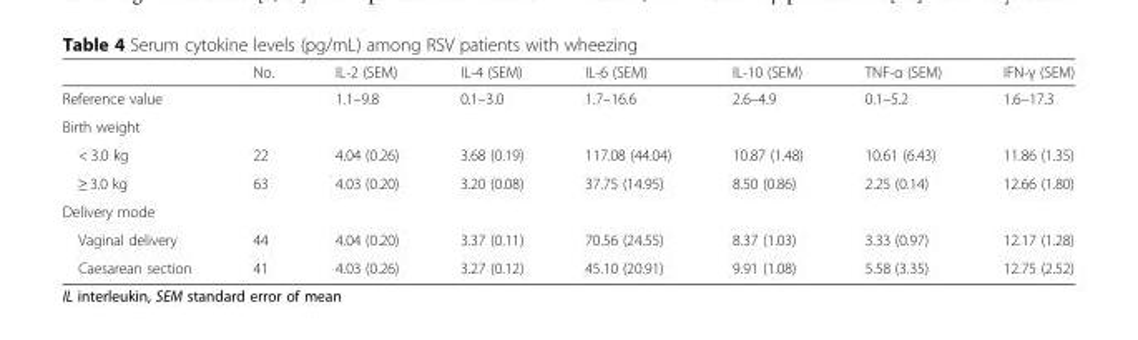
<table><thead><tr><td></td><td>No.</td><td>IL-2 (SEM)</td><td>IL-4 (SEM)</td><td>IL-6 (SEM)</td><td>IL-10 (SEM)</td><td>TNF-α (SEM)</td><td>IFN-γ (SEM)</td></tr></thead><tbody><tr><td>Reference value</td><td></td><td>1.1–9.8</td><td>0.1–3.0</td><td>1.7–16.6</td><td>2.6–4.9</td><td>0.1–5.2</td><td>1.6–17.3</td></tr><tr><td colspan="8">Birth weight</td></tr><tr><td>&lt; 3.0 kg</td><td>22</td><td>4.04 (0.26)</td><td>3.68 (0.19)</td><td>117.08 (44.04)</td><td>10.87 (1.48)</td><td>10.61 (6.43)</td><td>11.86 (1.35)</td></tr><tr><td>≥ 3.0 kg</td><td>63</td><td>4.03 (0.20)</td><td>3.20 (0.08)</td><td>37.75 (14.95)</td><td>8.50 (0.86)</td><td>2.25 (0.14)</td><td>12.66 (1.80)</td></tr><tr><td colspan="8">Delivery mode</td></tr><tr><td>Vaginal delivery</td><td>44</td><td>4.04 (0.20)</td><td>3.37 (0.11)</td><td>70.56 (24.55)</td><td>8.37 (1.03)</td><td>3.33 (0.97)</td><td>12.17 (1.28)</td></tr><tr><td>Caesarean section</td><td>41</td><td>4.03 (0.26)</td><td>3.27 (0.12)</td><td>45.10 (20.91)</td><td>9.91 (1.08)</td><td>5.58 (3.35)</td><td>12.75 (2.52)</td></tr></tbody></table>